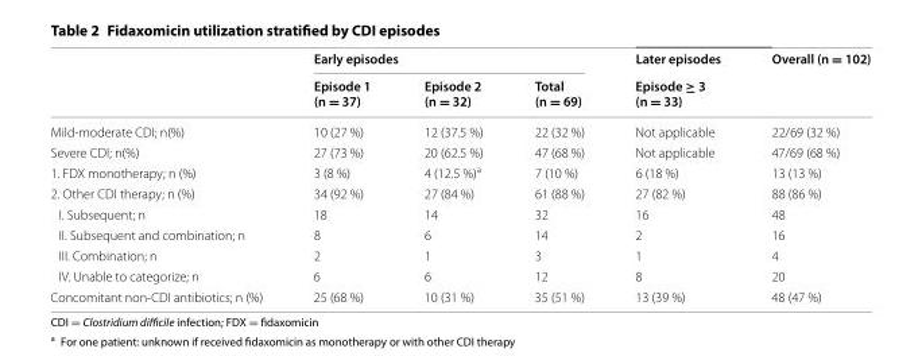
<table><thead><tr><td rowspan="2"></td><td colspan="3">Early episodes</td><td rowspan="2">Later episodes Episode ≥ 3 (n = 33)</td><td rowspan="2">Overall (n = 102)</td></tr><tr><td>Episode 1 (n = 37)</td><td>Episode 2 (n = 32)</td><td>Total (n = 69)</td></tr></thead><tbody><tr><td>Mild-moderate CDI; n(%)</td><td>10 (27 %)</td><td>12 (37.5 %)</td><td>22 (32 %)</td><td>Not applicable</td><td>22/69 (32 %)</td></tr><tr><td>Severe CDI; n(%)</td><td>27 (73 %)</td><td>20 (62.5 %)</td><td>47 (68 %)</td><td>Not applicable</td><td>47/69 (68 %)</td></tr><tr><td>1. FDX monotherapy; n (%)</td><td>3 (8 %)</td><td>4 (12.5 %)<sup>a</sup></td><td>7 (10 %)</td><td>6 (18 %)</td><td>13 (13 %)</td></tr><tr><td>2. Other CDI therapy; n (%)</td><td>34 (92 %)</td><td>27 (84 %)</td><td>61 (88 %)</td><td>27 (82 %)</td><td>88 (86 %)</td></tr><tr><td>I. Subsequent; n</td><td>18</td><td>14</td><td>32</td><td>16</td><td>48</td></tr><tr><td>II. Subsequent and combination; n</td><td>8</td><td>6</td><td>14</td><td>2</td><td>16</td></tr><tr><td>III. Combination; n</td><td>2</td><td>1</td><td>3</td><td>1</td><td>4</td></tr><tr><td>IV. Unable to categorize; n</td><td>6</td><td>6</td><td>12</td><td>8</td><td>20</td></tr><tr><td>Concomitant non-CDI antibiotics; n (%)</td><td>25 (68 %)</td><td>10 (31 %)</td><td>35 (51 %)</td><td>13 (39 %)</td><td>48 (47 %)</td></tr></tbody></table>